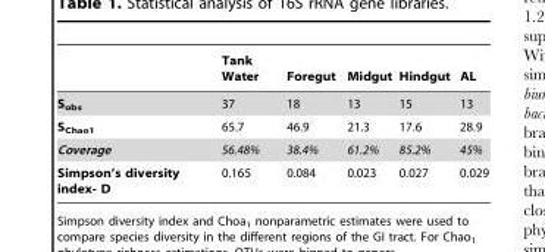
<table><thead><tr><td></td><td>Tank Water</td><td>Foregut</td><td>Midgut</td><td>Hindgut</td><td>AL</td></tr></thead><tbody><tr><td>S<sub>obs</sub></td><td>37</td><td>18</td><td>13</td><td>15</td><td>13</td></tr><tr><td>S<sub>Chao1</sub></td><td>65.7</td><td>46.9</td><td>21.3</td><td>17.6</td><td>28.9</td></tr><tr><td>Coverage</td><td>56.48%</td><td>38.4%</td><td>61.2%</td><td>85.2%</td><td>45%</td></tr><tr><td>Simpson’s diversity index- D</td><td>0.165</td><td>0.084</td><td>0.023</td><td>0.027</td><td>0.029</td></tr></tbody></table>